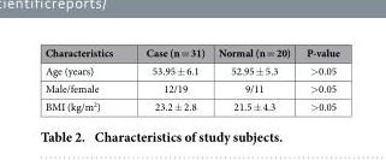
<table><thead><tr><td>Characteristics</td><td>Case (n = 31)</td><td>Normal (n = 20)</td><td>P-value</td></tr></thead><tbody><tr><td>Age (years)</td><td>53.95 ± 6.1</td><td>52.95 ± 5.3</td><td>&gt; 0.05</td></tr><tr><td>Male/female</td><td>12/19</td><td>9/11</td><td>&gt; 0.05</td></tr><tr><td>BMI (kg/m<sup>2</sup>)</td><td>23.2 ± 2.8</td><td>21.5 ± 4.3</td><td>&gt; 0.05</td></tr></tbody></table>